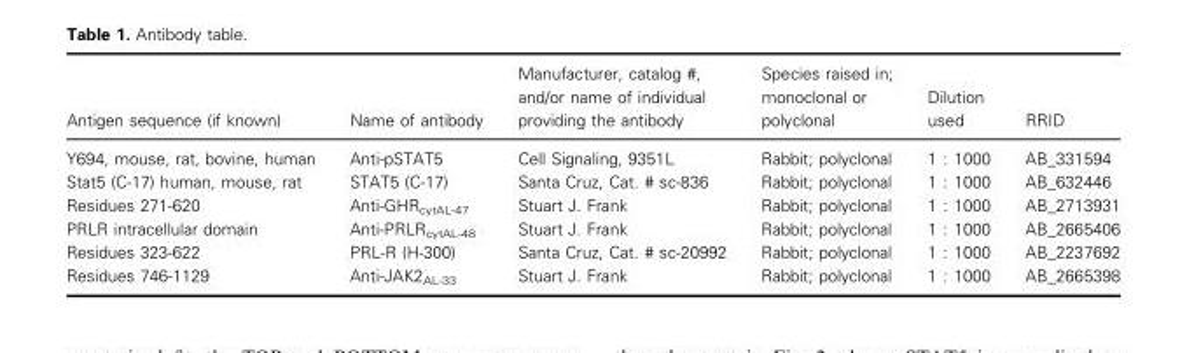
<table><thead><tr><td>Antigen sequence (if known)</td><td>Name of antibody</td><td>Manufacturer, catalog #, and/or name of individual providing the antibody</td><td>Species raised in; monoclonal or polyclonal</td><td>Dilution used</td><td>RRID</td></tr></thead><tbody><tr><td>Y694, mouse, rat, bovine, human</td><td>Anti-pSTAT5</td><td>Cell Signaling, 9351L</td><td>Rabbit; polyclonal</td><td>1 : 1000</td><td>AB_331594</td></tr><tr><td>Stat5 (C-17) human, mouse, rat</td><td>STAT5 (C-17)</td><td>Santa Cruz, Cat. # sc-836</td><td>Rabbit; polyclonal</td><td>1 : 1000</td><td>AB_632446</td></tr><tr><td>Residues 271-620</td><td>Anti-GHR<sub>cytAL-47</sub></td><td>Stuart J. Frank</td><td>Rabbit; polyclonal</td><td>1 : 1000</td><td>AB_2713931</td></tr><tr><td>PRLR intracellular domain</td><td>Anti-PRLR<sub>cytAL-48</sub></td><td>Stuart J. Frank</td><td>Rabbit; polyclonal</td><td>1 : 1000</td><td>AB_2665406</td></tr><tr><td>Residues 323-622</td><td>PRL-R (H-300)</td><td>Santa Cruz, Cat. # sc-20992</td><td>Rabbit; polyclonal</td><td>1 : 1000</td><td>AB_2237692</td></tr><tr><td>Residues 746-1129</td><td>Anti-JAK2<sub>AL-33</sub></td><td>Stuart J. Frank</td><td>Rabbit; polyclonal</td><td>1 : 1000</td><td>AB_2665398</td></tr></tbody></table>